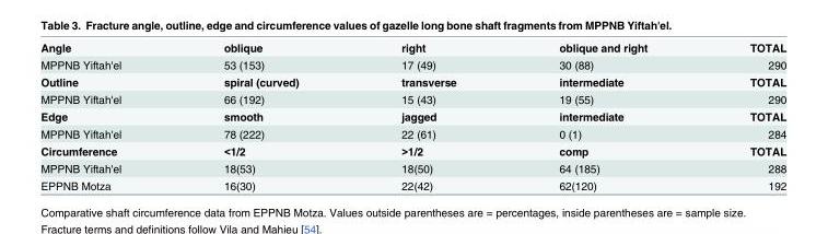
<table><tbody><tr><td>Angle</td><td>oblique</td><td>right</td><td>oblique and right</td><td>TOTAL</td></tr><tr><td>MPPNB Yiftah&#x27;el</td><td>53 (153)</td><td>17 (49)</td><td>30 (88)</td><td>290</td></tr><tr><td>Outline</td><td>spiral (curved)</td><td>transverse</td><td>intermediate</td><td>TOTAL</td></tr><tr><td>MPPNB Yiftah&#x27;el</td><td>66 (192)</td><td>15 (43)</td><td>19 (55)</td><td>290</td></tr><tr><td>Edge</td><td>smooth</td><td>jagged</td><td>intermediate</td><td>TOTAL</td></tr><tr><td>MPPNB Yiftah&#x27;el</td><td>78 (222)</td><td>22 (61)</td><td>0 (1)</td><td>284</td></tr><tr><td>Circumference</td><td>&lt;1/2</td><td>&gt;1/2</td><td>comp</td><td>TOTAL</td></tr><tr><td>MPPNB Yiftah&#x27;el</td><td>18(53)</td><td>18(50)</td><td>64 (185)</td><td>288</td></tr><tr><td>EPPNB Motza</td><td>16(30)</td><td>22(42)</td><td>62(120)</td><td>192</td></tr></tbody></table>